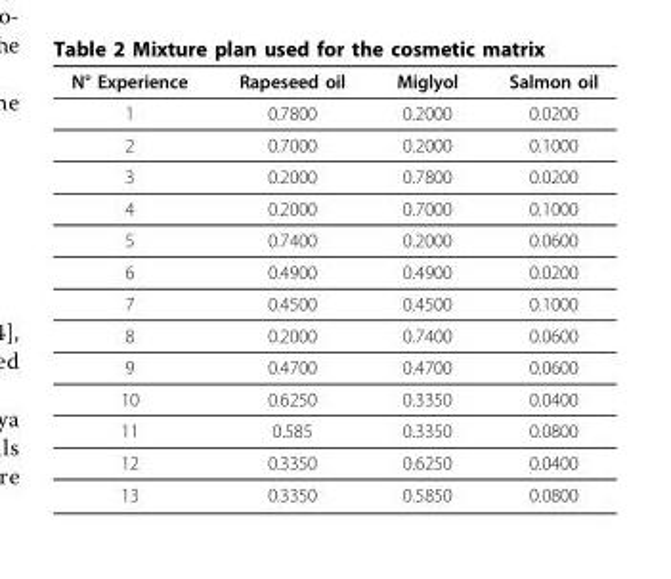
<table><thead><tr><td>N° Experience</td><td>Rapeseed oil</td><td>Miglyol</td><td>Salmon oil</td></tr></thead><tbody><tr><td>1</td><td>0.7800</td><td>0.2000</td><td>0.0200</td></tr><tr><td>2</td><td>0.7000</td><td>0.2000</td><td>0.1000</td></tr><tr><td>3</td><td>0.2000</td><td>0.7800</td><td>0.0200</td></tr><tr><td>4</td><td>0.2000</td><td>0.7000</td><td>0.1000</td></tr><tr><td>5</td><td>0.7400</td><td>0.2000</td><td>0.0600</td></tr><tr><td>6</td><td>0.4900</td><td>0.4900</td><td>0.0200</td></tr><tr><td>7</td><td>0.4500</td><td>0.4500</td><td>0.1000</td></tr><tr><td>8</td><td>0.2000</td><td>0.7400</td><td>0.0600</td></tr><tr><td>9</td><td>0.4700</td><td>0.4700</td><td>0.0600</td></tr><tr><td>10</td><td>0.6250</td><td>0.3350</td><td>0.0400</td></tr><tr><td>11</td><td>0.585</td><td>0.3350</td><td>0.0800</td></tr><tr><td>12</td><td>0.3350</td><td>0.6250</td><td>0.0400</td></tr><tr><td>13</td><td>0.3350</td><td>0.5850</td><td>0.0800</td></tr></tbody></table>